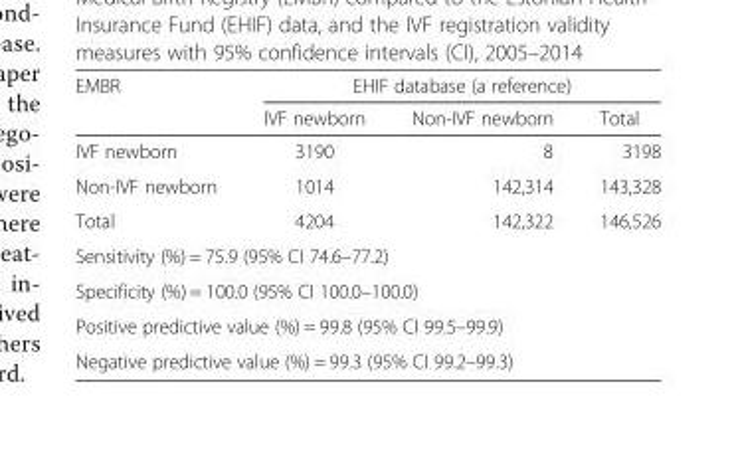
<table><thead><tr><td rowspan="2">EMBR</td><td colspan="3">EHIF database (a reference)</td></tr><tr><td>IVF newborn</td><td>Non-IVF newborn</td><td>Total</td></tr></thead><tbody><tr><td>IVF newborn</td><td>3190</td><td>8</td><td>3198</td></tr><tr><td>Non-IVF newborn</td><td>1014</td><td>142,314</td><td>143,328</td></tr><tr><td>Total</td><td>4204</td><td>142,322</td><td>146,526</td></tr><tr><td colspan="4">Sensitivity (%) = 75.9 (95% CI 74.6–77.2)</td></tr><tr><td colspan="4">Specificity (%) = 100.0 (95% CI 100.0–100.0)</td></tr><tr><td colspan="4">Positive predictive value (%) = 99.8 (95% CI 99.5–99.9)</td></tr><tr><td colspan="4">Negative predictive value (%) = 99.3 (95% CI 99.2–99.3)</td></tr></tbody></table>